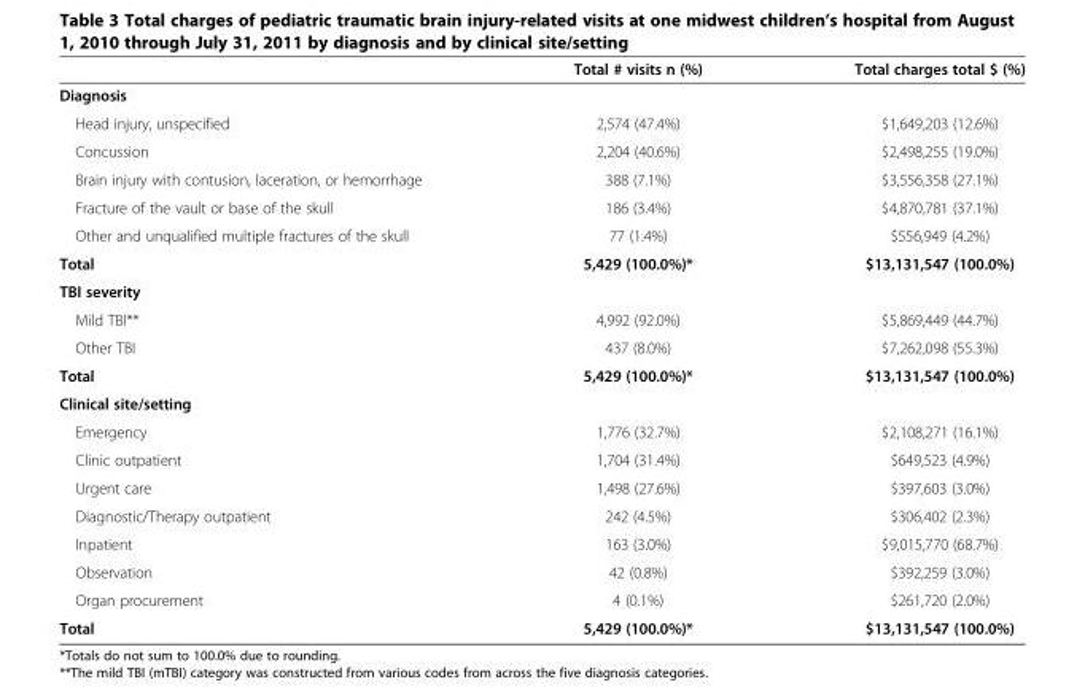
<table><thead><tr><td></td><td>Total # visits n (%)</td><td>Total charges total $ (%)</td></tr></thead><tbody><tr><td colspan="3">Diagnosis</td></tr><tr><td>Head injury, unspecified</td><td>2,574 (47.4%)</td><td>$1,649,203 (12.6%)</td></tr><tr><td>Concussion</td><td>2,204 (40.6%)</td><td>$2,498,255 (19.0%)</td></tr><tr><td>Brain injury with contusion, laceration, or hemorrhage</td><td>388 (7.1%)</td><td>$3,556,358 (27.1%)</td></tr><tr><td>Fracture of the vault or base of the skull</td><td>186 (3.4%)</td><td>$4,870,781 (37.1%)</td></tr><tr><td>Other and unqualified multiple fractures of the skull</td><td>77 (1.4%)</td><td>$556,949 (4.2%)</td></tr><tr><td>Total</td><td>5,429 (100.0%)*</td><td>$13,131,547 (100.0%)</td></tr><tr><td colspan="3">TBI severity</td></tr><tr><td>Mild TBI**</td><td>4,992 (92.0%)</td><td>$5,869,449 (44.7%)</td></tr><tr><td>Other TBI</td><td>437 (8.0%)</td><td>$7,262,098 (55.3%)</td></tr><tr><td>Total</td><td>5,429 (100.0%)*</td><td>$13,131,547 (100.0%)</td></tr><tr><td colspan="3">Clinical site/setting</td></tr><tr><td>Emergency</td><td>1,776 (32.7%)</td><td>$2,108,271 (16.1%)</td></tr><tr><td>Clinic outpatient</td><td>1,704 (31.4%)</td><td>$649,523 (4.9%)</td></tr><tr><td>Urgent care</td><td>1,498 (27.6%)</td><td>$397,603 (3.0%)</td></tr><tr><td>Diagnostic/Therapy outpatient</td><td>242 (4.5%)</td><td>$306,402 (2.3%)</td></tr><tr><td>Inpatient</td><td>163 (3.0%)</td><td>$9,015,770 (68.7%)</td></tr><tr><td>Observation</td><td>42 (0.8%)</td><td>$392,259 (3.0%)</td></tr><tr><td>Organ procurement</td><td>4 (0.1%)</td><td>$261,720 (2.0%)</td></tr><tr><td>Total</td><td>5,429 (100.0%)*</td><td>$13,131,547 (100.0%)</td></tr></tbody></table>